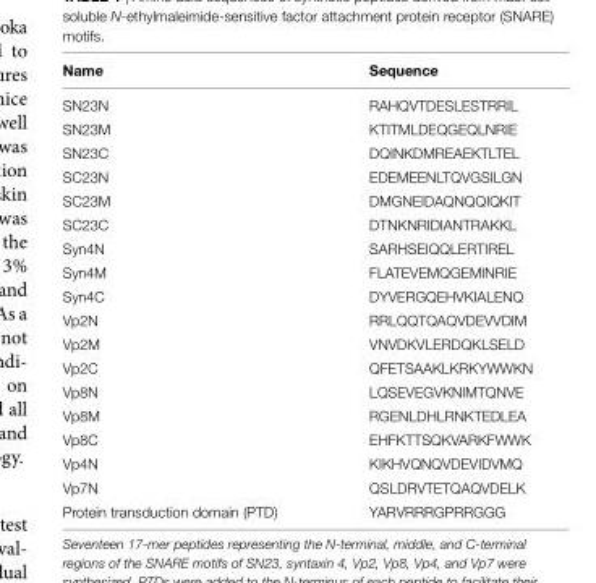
<table><thead><tr><td>name</td><td>sequence</td></tr></thead><tbody><tr><td>SN23N</td><td>RAHQVTDESLESTRRIL</td></tr><tr><td>SN23M</td><td>KTITMLDEQGEQLNRIE</td></tr><tr><td>SN23C</td><td>DQINKDMREAEKTLTEL</td></tr><tr><td>SC23N</td><td>EDEMEENLTQVGSILGN</td></tr><tr><td>SC23M</td><td>DMGNEIDAQNQQIQKIT</td></tr><tr><td>SC23C</td><td>DTNKNRIDIANTRAKKL</td></tr><tr><td>Syn4N</td><td>SARHSEIQQLERTIREL</td></tr><tr><td>Syn4M</td><td>FLATEVEMQGEMINRIE</td></tr><tr><td>Syn4C</td><td>DYVERGQEHVKIALENQ</td></tr><tr><td>Vp2N</td><td>RRLQQTQAQVDEVVDIM</td></tr><tr><td>Vp2M</td><td>VNVDKVLERDQKLSELD</td></tr><tr><td>Vp2C</td><td>QFETSAAKLKRKYWWKN</td></tr><tr><td>Vp8N</td><td>LQSEVEGVKNIMTQNVE</td></tr><tr><td>Vp8M</td><td>RGENLDHLRNKTEDLEA</td></tr><tr><td>Vp8C</td><td>EHFKTTSQKVARKFWWK</td></tr><tr><td>Vp4N</td><td>KIKHVQNQVDEVIDVMQ</td></tr><tr><td>Vp7N</td><td>QSLDRVTETQAQVDELK</td></tr><tr><td>Protein transduction domain (PTD)</td><td>YARVRRRGPRRGGG</td></tr></tbody></table>